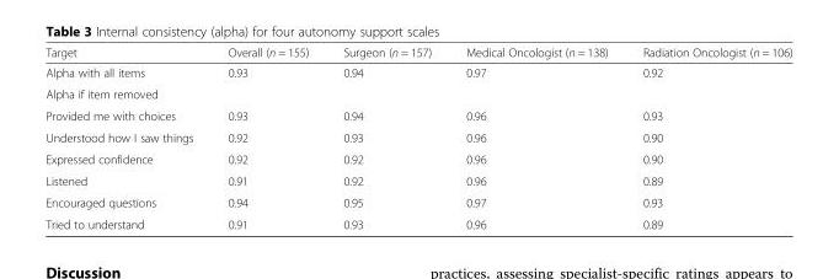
<table><thead><tr><td>Target</td><td>Overall (n = 155)</td><td>Surgeon (n = 157)</td><td>Medical Oncologist (n = 138)</td><td>Radiation Oncologist (n = 106)</td></tr></thead><tbody><tr><td>Alpha with all items</td><td>0.93</td><td>0.94</td><td>0.97</td><td>0.92</td></tr><tr><td colspan="5">Alpha if item removed</td></tr><tr><td>Provided me with choices</td><td>0.93</td><td>0.94</td><td>0.96</td><td>0.93</td></tr><tr><td>Understood how I saw things</td><td>0.92</td><td>0.93</td><td>0.96</td><td>0.90</td></tr><tr><td>Expressed confidence</td><td>0.92</td><td>0.92</td><td>0.96</td><td>0.90</td></tr><tr><td>Listened</td><td>0.91</td><td>0.92</td><td>0.96</td><td>0.89</td></tr><tr><td>Encouraged questions</td><td>0.94</td><td>0.95</td><td>0.97</td><td>0.93</td></tr><tr><td>Tried to understand</td><td>0.91</td><td>0.93</td><td>0.96</td><td>0.89</td></tr></tbody></table>